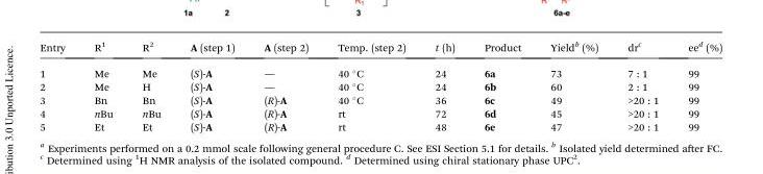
<table><thead><tr><td>Entry</td><td>R<sup>1</sup></td><td>R<sup>2</sup></td><td>A (step 1)</td><td>A (step 2)</td><td>Temp. (step 2)</td><td>t (h)</td><td>Product</td><td>Yield<sup>b</sup> (%)</td><td>dr<sup>c</sup></td><td>ee<sup>d</sup> (%)</td></tr></thead><tbody><tr><td>1</td><td>Me</td><td>Me</td><td>(S)-A</td><td>—</td><td>40 °C</td><td>24</td><td>6a</td><td>73</td><td>7 : 1</td><td>99</td></tr><tr><td>2</td><td>Me</td><td>H</td><td>(S)-A</td><td>—</td><td>40 °C</td><td>24</td><td>6b</td><td>60</td><td>2 : 1</td><td>99</td></tr><tr><td>3</td><td>Bn</td><td>Bn</td><td>(S)-A</td><td>(R)-A</td><td>40 °C</td><td>36</td><td>6c</td><td>49</td><td>&gt;20 : 1</td><td>99</td></tr><tr><td>4</td><td>nBu</td><td>nBu</td><td>(S)-A</td><td>(R)-A</td><td>rt</td><td>72</td><td>6d</td><td>45</td><td>&gt;20 : 1</td><td>99</td></tr><tr><td>5</td><td>Et</td><td>Et</td><td>(S)-A</td><td>(R)-A</td><td>rt</td><td>48</td><td>6e</td><td>47</td><td>&gt;20 : 1</td><td>99</td></tr></tbody></table>